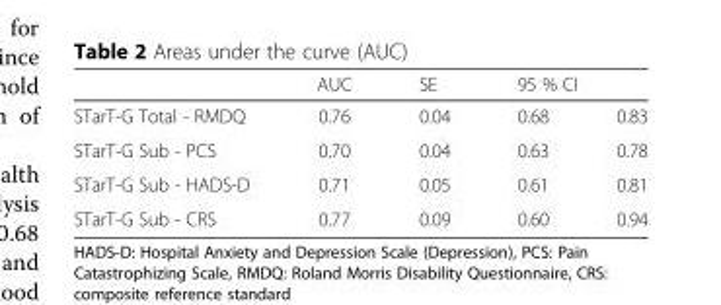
<table><thead><tr><td rowspan="2">STarT-G Total - RMDQ</td><td rowspan="2">AUC 0.76</td><td rowspan="2">SE 0.04</td><td colspan="2">95 % CI</td></tr><tr><td>0.68</td><td>0.83</td></tr></thead><tbody><tr><td>STarT-G Sub - PCS</td><td>0.70</td><td>0.04</td><td>0.63</td><td>0.78</td></tr><tr><td>STarT-G Sub - HADS-D</td><td>0.71</td><td>0.05</td><td>0.61</td><td>0.81</td></tr><tr><td>STarT-G Sub - CRS</td><td>0.77</td><td>0.09</td><td>0.60</td><td>0.94</td></tr></tbody></table>